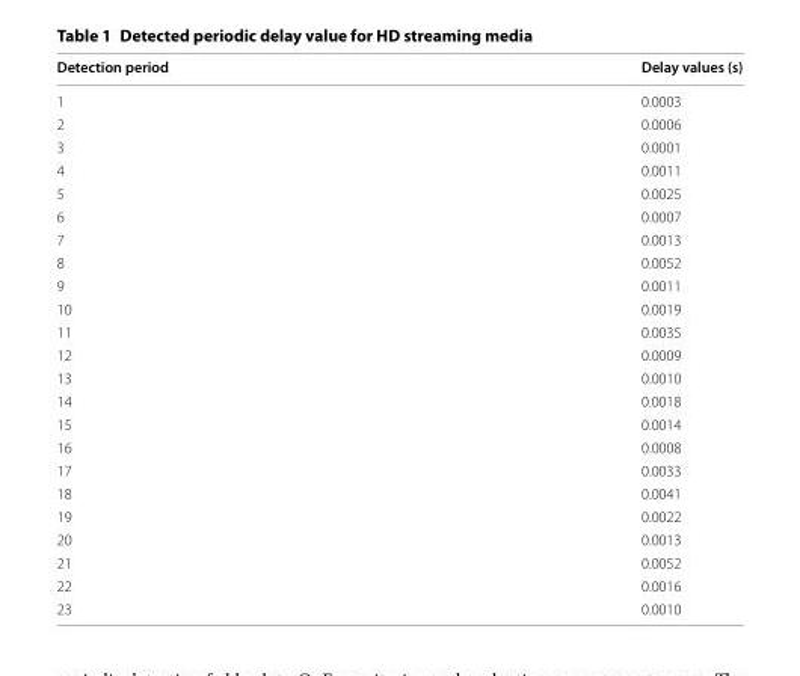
<table><thead><tr><td>Detection period</td><td>Delay values (s)</td></tr></thead><tbody><tr><td>1</td><td>0.0003</td></tr><tr><td>2</td><td>0.0006</td></tr><tr><td>3</td><td>0.0001</td></tr><tr><td>4</td><td>0.0011</td></tr><tr><td>5</td><td>0.0025</td></tr><tr><td>6</td><td>0.0007</td></tr><tr><td>7</td><td>0.0013</td></tr><tr><td>8</td><td>0.0052</td></tr><tr><td>9</td><td>0.0011</td></tr><tr><td>10</td><td>0.0019</td></tr><tr><td>11</td><td>0.0035</td></tr><tr><td>12</td><td>0.0009</td></tr><tr><td>13</td><td>0.0010</td></tr><tr><td>14</td><td>0.0018</td></tr><tr><td>15</td><td>0.0014</td></tr><tr><td>16</td><td>0.0008</td></tr><tr><td>17</td><td>0.0033</td></tr><tr><td>18</td><td>0.0041</td></tr><tr><td>19</td><td>0.0022</td></tr><tr><td>20</td><td>0.0013</td></tr><tr><td>21</td><td>0.0052</td></tr><tr><td>22</td><td>0.0016</td></tr><tr><td>23</td><td>0.0010</td></tr></tbody></table>